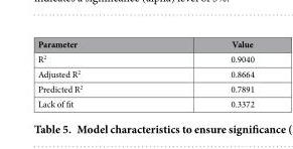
<table><thead><tr><td>Parameter</td><td>Value</td></tr></thead><tbody><tr><td>R<sup>2</sup></td><td>0.9040</td></tr><tr><td>Adjusted R<sup>2</sup></td><td>0.8664</td></tr><tr><td>Predicted R<sup>2</sup></td><td>0.7891</td></tr><tr><td>Lack of fit</td><td>0.3372</td></tr></tbody></table>